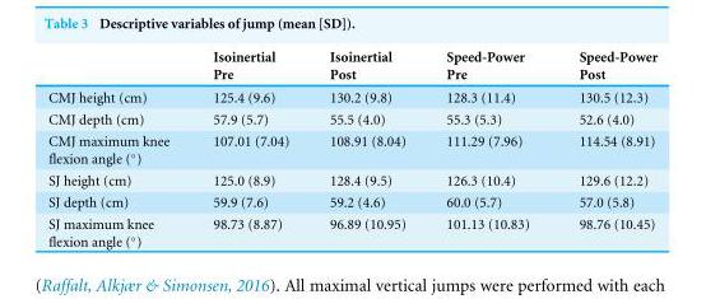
<table><thead><tr><td></td><td>Isoinertial Pre</td><td>Isoinertial Post</td><td>Speed-Power Pre</td><td>Speed-Power Post</td></tr></thead><tbody><tr><td>CMJ height (cm)</td><td>125.4 (9.6)</td><td>130.2 (9.8)</td><td>128.3 (11.4)</td><td>130.5 (12.3)</td></tr><tr><td>CMJ depth (cm)</td><td>57.9 (5.7)</td><td>55.5 (4.0)</td><td>55.3 (5.3)</td><td>52.6 (4.0)</td></tr><tr><td>CMJ maximum knee flexion angle (◦)</td><td>107.01 (7.04)</td><td>108.91 (8.04)</td><td>111.29 (7.96)</td><td>114.54 (8.91)</td></tr><tr><td>SJ height (cm)</td><td>125.0 (8.9)</td><td>128.4 (9.5)</td><td>126.3 (10.4)</td><td>129.6 (12.2)</td></tr><tr><td>SJ depth (cm)</td><td>59.9 (7.6)</td><td>59.2 (4.6)</td><td>60.0 (5.7)</td><td>57.0 (5.8)</td></tr><tr><td>SJ maximum knee flexion angle (◦)</td><td>98.73 (8.87)</td><td>96.89 (10.95)</td><td>101.13 (10.83)</td><td>98.76 (10.45)</td></tr></tbody></table>